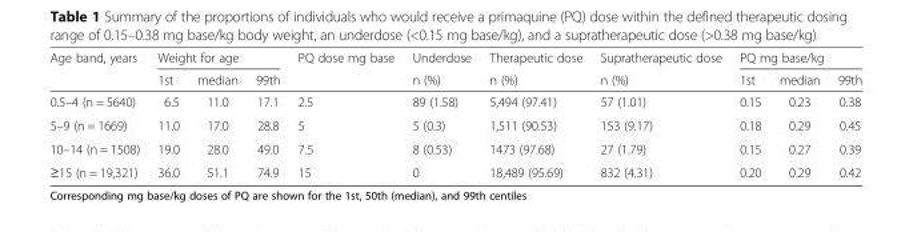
<table><thead><tr><td rowspan="2">Age band, years</td><td colspan="3">Weight for age</td><td rowspan="2">PQ dose mg base</td><td rowspan="2">Underdose n (%)</td><td rowspan="2">Therapeutic dose n (%)</td><td rowspan="2">Supratherapeutic dose n (%)</td><td colspan="3">PQ mg base/kg</td></tr><tr><td>1st</td><td>median</td><td>99th</td><td>1st</td><td>median</td><td>99th</td></tr></thead><tbody><tr><td>0.5–4 (n = 5640)</td><td>6.5</td><td>11.0</td><td>17.1</td><td>2.5</td><td>89 (1.58)</td><td>5,494 (97.41)</td><td>57 (1.01)</td><td>0.15</td><td>0.23</td><td>0.38</td></tr><tr><td>5–9 (n = 1669)</td><td>11.0</td><td>17.0</td><td>28.8</td><td>5</td><td>5 (0.3)</td><td>1,511 (90.53)</td><td>153 (9.17)</td><td>0.18</td><td>0.29</td><td>0.45</td></tr><tr><td>10–14 (n = 1508)</td><td>19.0</td><td>28.0</td><td>49.0</td><td>7.5</td><td>8 (0.53)</td><td>1473 (97.68)</td><td>27 (1.79)</td><td>0.15</td><td>0.27</td><td>0.39</td></tr><tr><td>≥15 (n = 19,321)</td><td>36.0</td><td>51.1</td><td>74.9</td><td>15</td><td>0</td><td>18,489 (95.69)</td><td>832 (4.31)</td><td>0.20</td><td>0.29</td><td>0.42</td></tr></tbody></table>